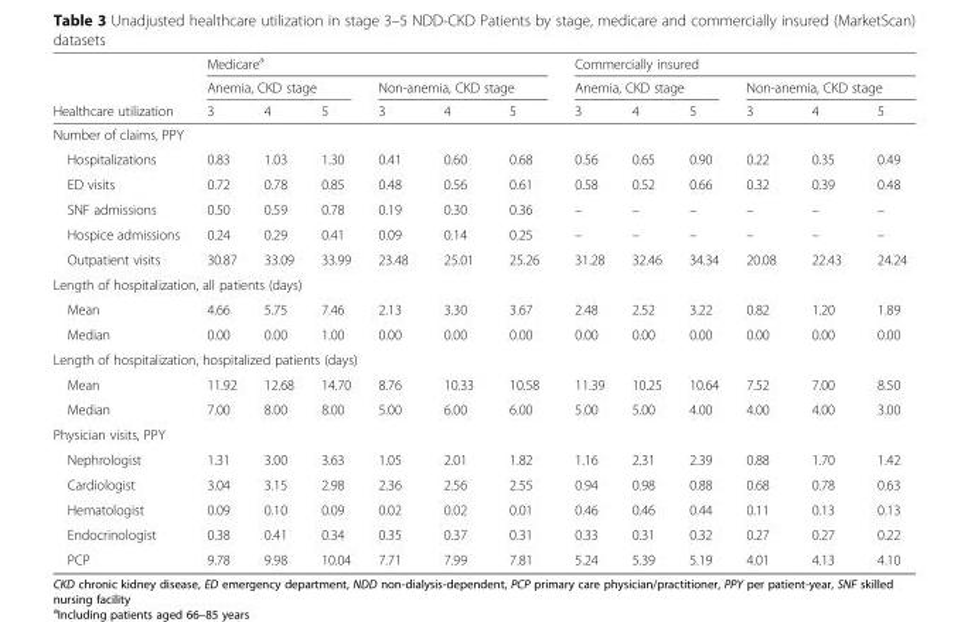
<table><thead><tr><td rowspan="3">Healthcare utilization</td><td colspan="6">Medicare<sup>a</sup></td><td colspan="6">Commercially insured</td></tr><tr><td colspan="3">Anemia, CKD stage</td><td colspan="3">Non-anemia, CKD stage</td><td colspan="3">Anemia, CKD stage</td><td colspan="3">Non-anemia, CKD stage</td></tr><tr><td>3</td><td>4</td><td>5</td><td>3</td><td>4</td><td>5</td><td>3</td><td>4</td><td>5</td><td>3</td><td>4</td><td>5</td></tr></thead><tbody><tr><td colspan="13">Number of claims, PPY</td></tr><tr><td>Hospitalizations</td><td>0.83</td><td>1.03</td><td>1.30</td><td>0.41</td><td>0.60</td><td>0.68</td><td>0.56</td><td>0.65</td><td>0.90</td><td>0.22</td><td>0.35</td><td>0.49</td></tr><tr><td>ED visits</td><td>0.72</td><td>0.78</td><td>0.85</td><td>0.48</td><td>0.56</td><td>0.61</td><td>0.58</td><td>0.52</td><td>0.66</td><td>0.32</td><td>0.39</td><td>0.48</td></tr><tr><td>SNF admissions</td><td>0.50</td><td>0.59</td><td>0.78</td><td>0.19</td><td>0.30</td><td>0.36</td><td>–</td><td>–</td><td>–</td><td>–</td><td>–</td><td>–</td></tr><tr><td>Hospice admissions</td><td>0.24</td><td>0.29</td><td>0.41</td><td>0.09</td><td>0.14</td><td>0.25</td><td>–</td><td>–</td><td>–</td><td>–</td><td>–</td><td>–</td></tr><tr><td>Outpatient visits</td><td>30.87</td><td>33.09</td><td>33.99</td><td>23.48</td><td>25.01</td><td>25.26</td><td>31.28</td><td>32.46</td><td>34.34</td><td>20.08</td><td>22.43</td><td>24.24</td></tr><tr><td colspan="13">Length of hospitalization, all patients (days)</td></tr><tr><td>Mean</td><td>4.66</td><td>5.75</td><td>7.46</td><td>2.13</td><td>3.30</td><td>3.67</td><td>2.48</td><td>2.52</td><td>3.22</td><td>0.82</td><td>1.20</td><td>1.89</td></tr><tr><td>Median</td><td>0.00</td><td>0.00</td><td>1.00</td><td>0.00</td><td>0.00</td><td>0.00</td><td>0.00</td><td>0.00</td><td>0.00</td><td>0.00</td><td>0.00</td><td>0.00</td></tr><tr><td colspan="13">Length of hospitalization, hospitalized patients (days)</td></tr><tr><td>Mean</td><td>11.92</td><td>12.68</td><td>14.70</td><td>8.76</td><td>10.33</td><td>10.58</td><td>11.39</td><td>10.25</td><td>10.64</td><td>7.52</td><td>7.00</td><td>8.50</td></tr><tr><td>Median</td><td>7.00</td><td>8.00</td><td>8.00</td><td>5.00</td><td>6.00</td><td>6.00</td><td>5.00</td><td>5.00</td><td>4.00</td><td>4.00</td><td>4.00</td><td>3.00</td></tr><tr><td colspan="13">Physician visits, PPY</td></tr><tr><td>Nephrologist</td><td>1.31</td><td>3.00</td><td>3.63</td><td>1.05</td><td>2.01</td><td>1.82</td><td>1.16</td><td>2.31</td><td>2.39</td><td>0.88</td><td>1.70</td><td>1.42</td></tr><tr><td>Cardiologist</td><td>3.04</td><td>3.15</td><td>2.98</td><td>2.36</td><td>2.56</td><td>2.55</td><td>0.94</td><td>0.98</td><td>0.88</td><td>0.68</td><td>0.78</td><td>0.63</td></tr><tr><td>Hematologist</td><td>0.09</td><td>0.10</td><td>0.09</td><td>0.02</td><td>0.02</td><td>0.01</td><td>0.46</td><td>0.46</td><td>0.44</td><td>0.11</td><td>0.13</td><td>0.13</td></tr><tr><td>Endocrinologist</td><td>0.38</td><td>0.41</td><td>0.34</td><td>0.35</td><td>0.37</td><td>0.31</td><td>0.33</td><td>0.31</td><td>0.32</td><td>0.27</td><td>0.27</td><td>0.22</td></tr><tr><td>PCP</td><td>9.78</td><td>9.98</td><td>10.04</td><td>7.71</td><td>7.99</td><td>7.81</td><td>5.24</td><td>5.39</td><td>5.19</td><td>4.01</td><td>4.13</td><td>4.10</td></tr></tbody></table>